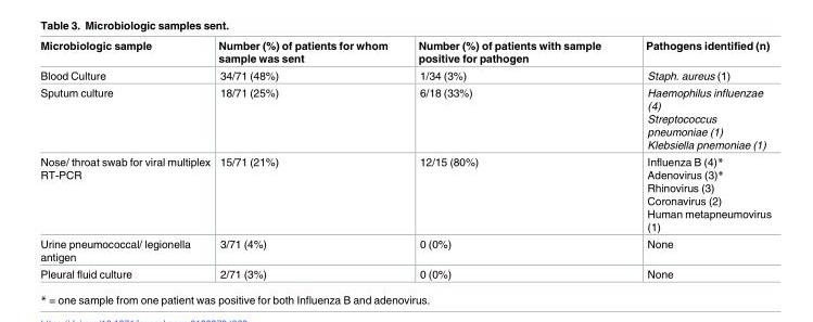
<table><thead><tr><td>Microbiologic sample</td><td>Number (%) of patients for whom sample was sent</td><td>Number (%) of patients with sample positive for pathogen</td><td>Pathogens identified (n)</td></tr></thead><tbody><tr><td>Blood Culture</td><td>34/71 (48%)</td><td>1/34 (3%)</td><td>Staph. aureus (1)</td></tr><tr><td>Sputum culture</td><td>18/71 (25%)</td><td>6/18 (33%)</td><td>Haemophilus influenzae (4) Streptococcus pneumoniae (1) Klebsiella pnemoniae (1)</td></tr><tr><td>Nose/ throat swab for viral multiplex RT-PCR</td><td>15/71 (21%)</td><td>12/15 (80%)</td><td>Influenza B (4)* Adenovirus (3)* Rhinovirus (3) Coronavirus (2) Human metapneumovirus (1)</td></tr><tr><td>Urine pneumococcal/ legionella antigen</td><td>3/71 (4%)</td><td>0 (0%)</td><td>None</td></tr><tr><td>Pleural fluid culture</td><td>2/71 (3%)</td><td>0 (0%)</td><td>None</td></tr></tbody></table>